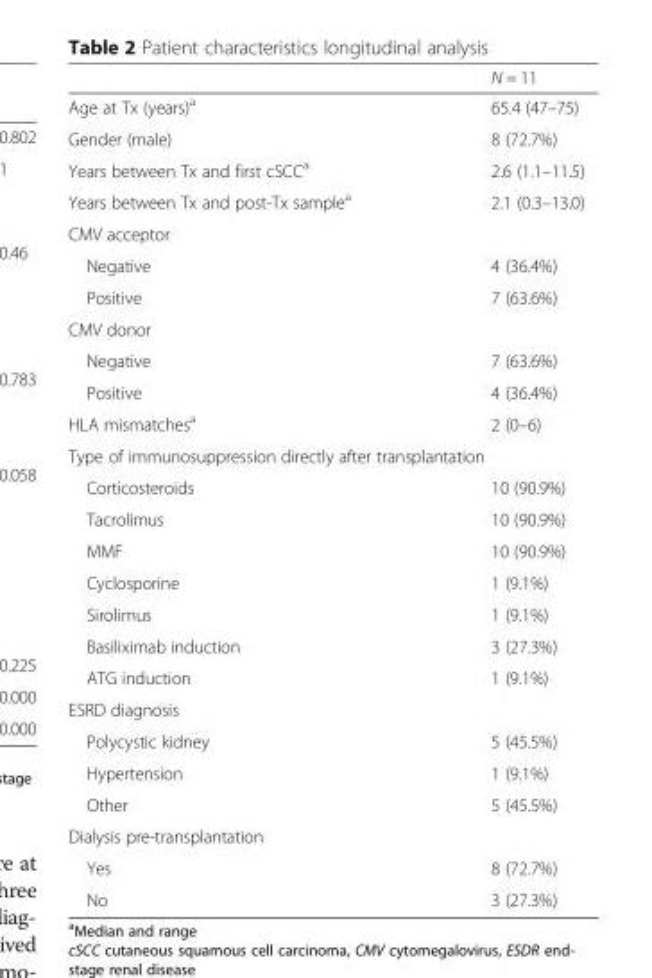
<table><thead><tr><td></td><td>N = 11</td></tr></thead><tbody><tr><td>Age at Tx (years)<sup>a</sup></td><td>65.4 (47–75)</td></tr><tr><td>Gender (male)</td><td>8 (72.7%)</td></tr><tr><td>Years between Tx and first cSCC<sup>a</sup></td><td>2.6 (1.1–11.5)</td></tr><tr><td>Years between Tx and post-Tx sample<sup>a</sup></td><td>2.1 (0.3–13.0)</td></tr><tr><td colspan="2">CMV acceptor</td></tr><tr><td>Negative</td><td>4 (36.4%)</td></tr><tr><td>Positive</td><td>7 (63.6%)</td></tr><tr><td colspan="2">CMV donor</td></tr><tr><td>Negative</td><td>7 (63.6%)</td></tr><tr><td>Positive</td><td>4 (36.4%)</td></tr><tr><td>HLA mismatches<sup>a</sup></td><td>2 (0–6)</td></tr><tr><td colspan="2">Type of immunosuppression directly after transplantation</td></tr><tr><td>Corticosteroids</td><td>10 (90.9%)</td></tr><tr><td>Tacrolimus</td><td>10 (90.9%)</td></tr><tr><td>MMF</td><td>10 (90.9%)</td></tr><tr><td>Cyclosporine</td><td>1 (9.1%)</td></tr><tr><td>Sirolimus</td><td>1 (9.1%)</td></tr><tr><td>Basiliximab induction</td><td>3 (27.3%)</td></tr><tr><td>ATG induction</td><td>1 (9.1%)</td></tr><tr><td colspan="2">ESRD diagnosis</td></tr><tr><td>Polycystic kidney</td><td>5 (45.5%)</td></tr><tr><td>Hypertension</td><td>1 (9.1%)</td></tr><tr><td>Other</td><td>5 (45.5%)</td></tr><tr><td colspan="2">Dialysis pre-transplantation</td></tr><tr><td>Yes</td><td>8 (72.7%)</td></tr><tr><td>No</td><td>3 (27.3%)</td></tr></tbody></table>